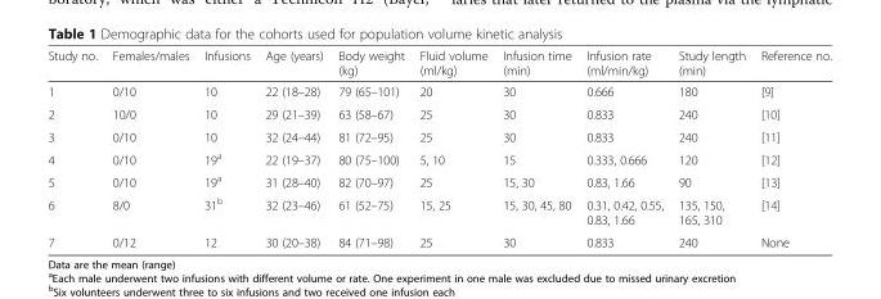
<table><thead><tr><td>Study no.</td><td>Females/males</td><td>Infusions</td><td>Age (years)</td><td>Body weight (kg)</td><td>Fluid volume (ml/kg)</td><td>Infusion time (min)</td><td>Infusion rate (ml/min/kg)</td><td>Study length (min)</td><td>Reference no.</td></tr></thead><tbody><tr><td>1</td><td>0/10</td><td>10</td><td>22 (18–28)</td><td>79 (65–101)</td><td>20</td><td>30</td><td>0.666</td><td>180</td><td>[9]</td></tr><tr><td>2</td><td>10/0</td><td>10</td><td>29 (21–39)</td><td>63 (58–67)</td><td>25</td><td>30</td><td>0.833</td><td>240</td><td>[10]</td></tr><tr><td>3</td><td>0/10</td><td>10</td><td>32 (24–44)</td><td>81 (72–95)</td><td>25</td><td>30</td><td>0.833</td><td>240</td><td>[11]</td></tr><tr><td>4</td><td>0/10</td><td>19<sup>a</sup></td><td>22 (19–37)</td><td>80 (75–100)</td><td>5, 10</td><td>15</td><td>0.333, 0.666</td><td>120</td><td>[12]</td></tr><tr><td>5</td><td>0/10</td><td>19<sup>a</sup></td><td>31 (28–40)</td><td>82 (70–97)</td><td>25</td><td>15, 30</td><td>0.83, 1.66</td><td>90</td><td>[13]</td></tr><tr><td>6</td><td>8/0</td><td>31<sup>b</sup></td><td>32 (23–46)</td><td>61 (52–75)</td><td>15, 25</td><td>15, 30, 45, 80</td><td>0.31, 0.42, 0.55, 0.83, 1.66</td><td>135, 150, 165, 310</td><td>[14]</td></tr><tr><td>7</td><td>0/12</td><td>12</td><td>30 (20–38)</td><td>84 (71–98)</td><td>25</td><td>30</td><td>0.833</td><td>240</td><td>None</td></tr></tbody></table>